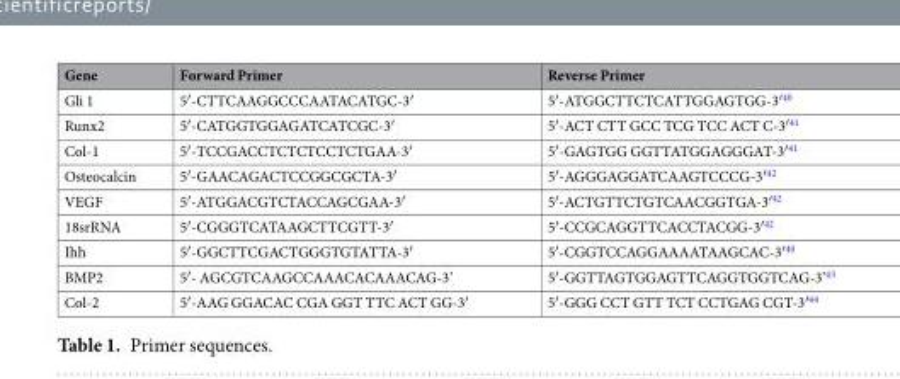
<table><thead><tr><td>Gene</td><td>Forward Primer</td><td>Reverse Primer</td></tr></thead><tbody><tr><td>Gli 1</td><td>5′-CTTCAAGGCCCAATACATGC-3′</td><td>5′-ATGGCTTCTCATTGGAGTGG-3′<sup>40</sup></td></tr><tr><td>Runx2</td><td>5′-CATGGTGGAGATCATCGC-3′</td><td>5′-ACT CTT GCC TCG TCC ACT C-3′<sup>41</sup></td></tr><tr><td>Col-1</td><td>5′-TCCGACCTCTCTCCTCTGAA-3′</td><td>5′-GAGTGG GGTTATGGAGGGAT-3′<sup>41</sup></td></tr><tr><td>Osteocalcin</td><td>5′-GAACAGACTCCGGCGCTA-3′</td><td>5′-AGGGAGGATCAAGTCCCG-3′<sup>42</sup></td></tr><tr><td>VEGF</td><td>5′-ATGGACGTCTACCAGCGAA-3′</td><td>5′-ACTGTTCTGTCAACGGTGA-3′<sup>42</sup></td></tr><tr><td>18srRNA</td><td>5′-CGGGTCATAAGCTTCGTT-3′</td><td>5′-CCGCAGGTTCACCTACGG-3′<sup>42</sup></td></tr><tr><td>Ihh</td><td>5′-GGCTTCGACTGGGTGTATTA-3′</td><td>5′-CGGTCCAGGAAAATAAGCAC-3′<sup>40</sup></td></tr><tr><td>BMP2</td><td>5′- AGCGTCAAGCCAAACACAAACAG-3’</td><td>5′-GGTTAGTGGAGTTCAGGTGGTCAG-3’<sup>43</sup></td></tr><tr><td>Col-2</td><td>5′-AAG GGACAC CGA GGT TTC ACT GG-3′</td><td>5′-GGG CCT GTT TCT CCTGAG CGT-3′<sup>44</sup></td></tr></tbody></table>